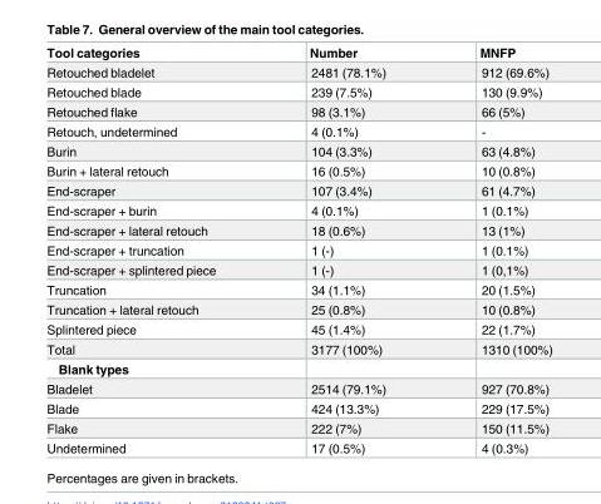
<table><thead><tr><td>Tool categories</td><td>Number</td><td>MNFP</td></tr></thead><tbody><tr><td>Retouched bladelet</td><td>2481 (78.1%)</td><td>912 (69.6%)</td></tr><tr><td>Retouched blade</td><td>239 (7.5%)</td><td>130 (9.9%)</td></tr><tr><td>Retouched flake</td><td>98 (3.1%)</td><td>66 (5%)</td></tr><tr><td>Retouch, undetermined</td><td>4 (0.1%)</td><td>-</td></tr><tr><td>Burin</td><td>104 (3.3%)</td><td>63 (4.8%)</td></tr><tr><td>Burin + lateral retouch</td><td>16 (0.5%)</td><td>10 (0.8%)</td></tr><tr><td>End-scraper</td><td>107 (3.4%)</td><td>61 (4.7%)</td></tr><tr><td>End-scraper + burin</td><td>4 (0.1%)</td><td>1 (0.1%)</td></tr><tr><td>End-scraper + lateral retouch</td><td>18 (0.6%)</td><td>13 (1%)</td></tr><tr><td>End-scraper + truncation</td><td>1 (-)</td><td>1 (0.1%)</td></tr><tr><td>End-scraper + splintered piece</td><td>1 (-)</td><td>1 (0,1%)</td></tr><tr><td>Truncation</td><td>34 (1.1%)</td><td>20 (1.5%)</td></tr><tr><td>Truncation + lateral retouch</td><td>25 (0.8%)</td><td>10 (0.8%)</td></tr><tr><td>Splintered piece</td><td>45 (1.4%)</td><td>22 (1.7%)</td></tr><tr><td>Total</td><td>3177 (100%)</td><td>1310 (100%)</td></tr><tr><td colspan="3">Blank types</td></tr><tr><td>Bladelet</td><td>2514 (79.1%)</td><td>927 (70.8%)</td></tr><tr><td>Blade</td><td>424 (13.3%)</td><td>229 (17.5%)</td></tr><tr><td>Flake</td><td>222 (7%)</td><td>150 (11.5%)</td></tr><tr><td>Undetermined</td><td>17 (0.5%)</td><td>4 (0.3%)</td></tr></tbody></table>